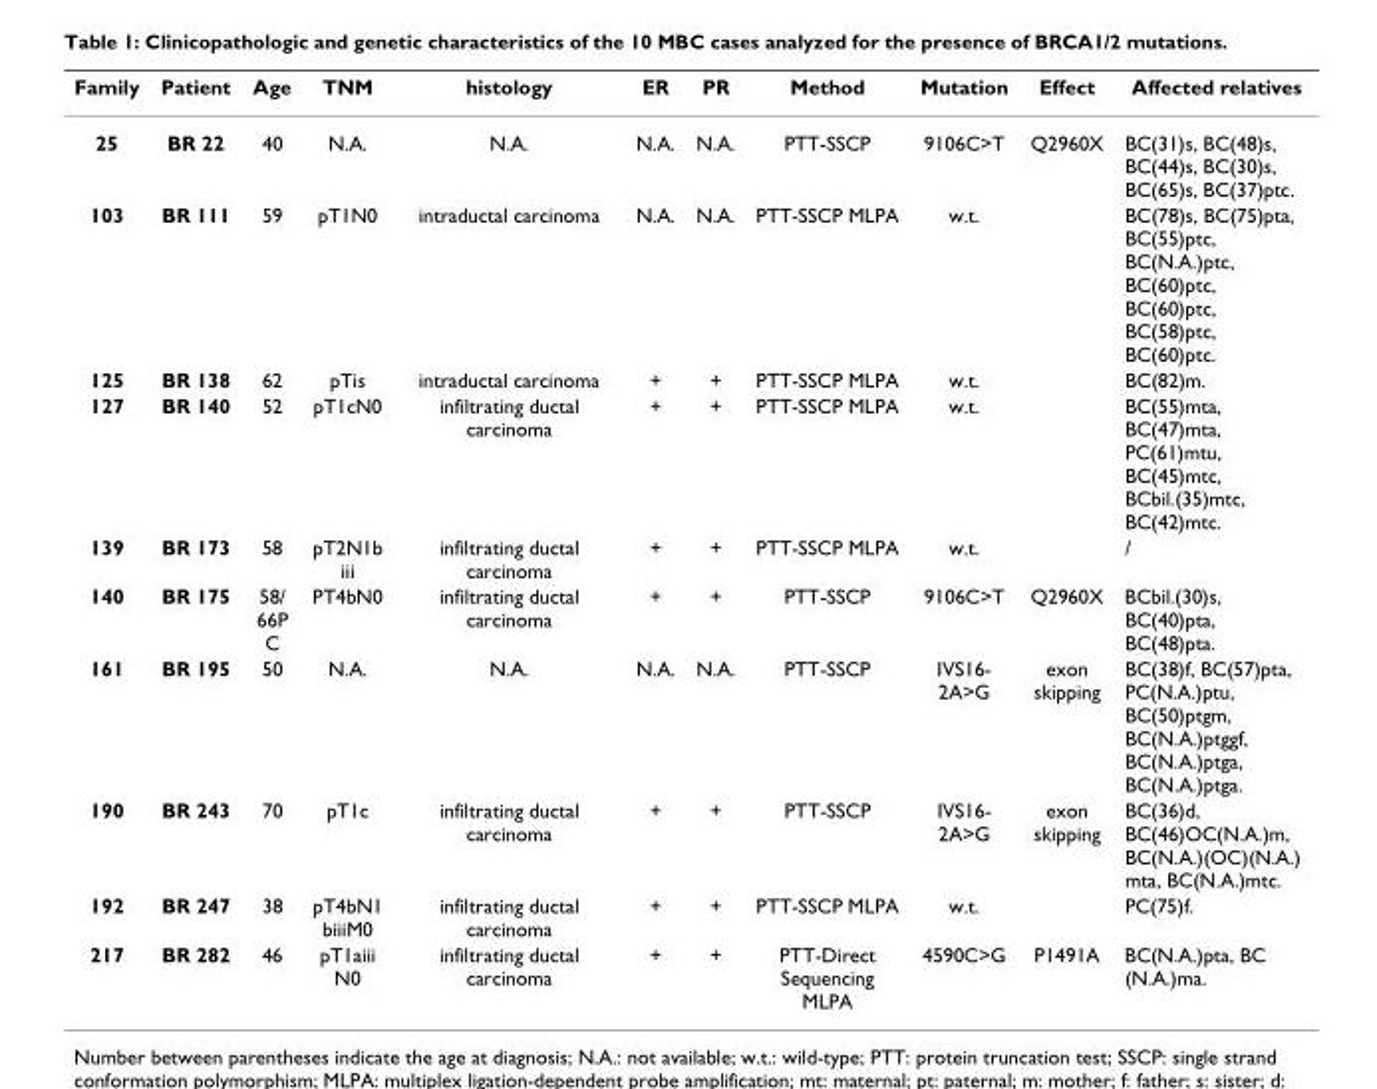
<table><thead><tr><td>Family</td><td>Patient</td><td>Age</td><td>TNM</td><td>histology</td><td>ER</td><td>PR</td><td>Method</td><td>Mutation</td><td>Effect</td><td>Affected relatives</td></tr></thead><tbody><tr><td>25</td><td>BR 22</td><td>40</td><td>N.A.</td><td>N.A.</td><td>N.A.</td><td>N.A.</td><td>PTT-SSCP</td><td>9106C&gt;T</td><td>Q2960X</td><td>BC(31)s, BC(48)s, BC(44)s, BC(30)s, BC(65)s, BC(37)ptc.</td></tr><tr><td>103</td><td>BR 111</td><td>59</td><td>pT1N0</td><td>intraductal carcinoma</td><td>N.A.</td><td>N.A.</td><td>PTT-SSCP MLPA</td><td>w.t.</td><td></td><td>BC(78)s, BC(75)pta, BC(55)ptc, BC(N.A.)ptc, BC(60)ptc, BC(60)ptc, BC(58)ptc, BC(60)ptc.</td></tr><tr><td>125</td><td>BR 138</td><td>62</td><td>pTis</td><td>intraductal carcinoma</td><td>+</td><td>+</td><td>PTT-SSCP MLPA</td><td>w.t.</td><td></td><td>BC(82)m.</td></tr><tr><td>127</td><td>BR 140</td><td>52</td><td>pT1cN0</td><td>infiltrating ductal carcinoma</td><td>+</td><td>+</td><td>PTT-SSCP MLPA</td><td>w.t.</td><td></td><td>BC(55)mta, BC(47)mta, PC(61)mtu, BC(45)mtc, BCbil.(35)mtc, BC(42)mtc.</td></tr><tr><td>139</td><td>BR 173</td><td>58</td><td>pT2N1b iii</td><td>infiltrating ductal carcinoma</td><td>+</td><td>+</td><td>PTT-SSCP MLPA</td><td>w.t.</td><td></td><td>/</td></tr><tr><td>140</td><td>BR 175</td><td>58/ 66P C</td><td>PT4bN0</td><td>infiltrating ductal carcinoma</td><td>+</td><td>+</td><td>PTT-SSCP</td><td>9106C&gt;T</td><td>Q2960X</td><td>BCbil.(30)s, BC(40)pta, BC(48)pta.</td></tr><tr><td>161</td><td>BR 195</td><td>50</td><td>N.A.</td><td>N.A.</td><td>N.A.</td><td>N.A.</td><td>PTT-SSCP</td><td>IVS16- 2A&gt;G</td><td>exon skipping</td><td>BC(38)f, BC(57)pta, PC(N.A.)ptu, BC(50)ptgm, BC(N.A.)ptggf, BC(N.A.)ptga, BC(N.A.)ptga.</td></tr><tr><td>190</td><td>BR 243</td><td>70</td><td>pT1c</td><td>infiltrating ductal carcinoma</td><td>+</td><td>+</td><td>PTT-SSCP</td><td>IVS16- 2A&gt;G</td><td>exon skipping</td><td>BC(36)d, BC(46)OC(N.A.)m, BC(N.A.)(OC)(N.A.) mta, BC(N.A.)mtc.</td></tr><tr><td>192</td><td>BR 247</td><td>38</td><td>pT4bN1 biiiM0</td><td>infiltrating ductal carcinoma</td><td>+</td><td>+</td><td>PTT-SSCP MLPA</td><td>w.t.</td><td></td><td>PC(75)f.</td></tr><tr><td>217</td><td>BR 282</td><td>46</td><td>pT1aiii N0</td><td>infiltrating ductal carcinoma</td><td>+</td><td>+</td><td>PTT-Direct Sequencing MLPA</td><td>4590C&gt;G</td><td>P1491A</td><td>BC(N.A.)pta, BC (N.A.)ma.</td></tr></tbody></table>